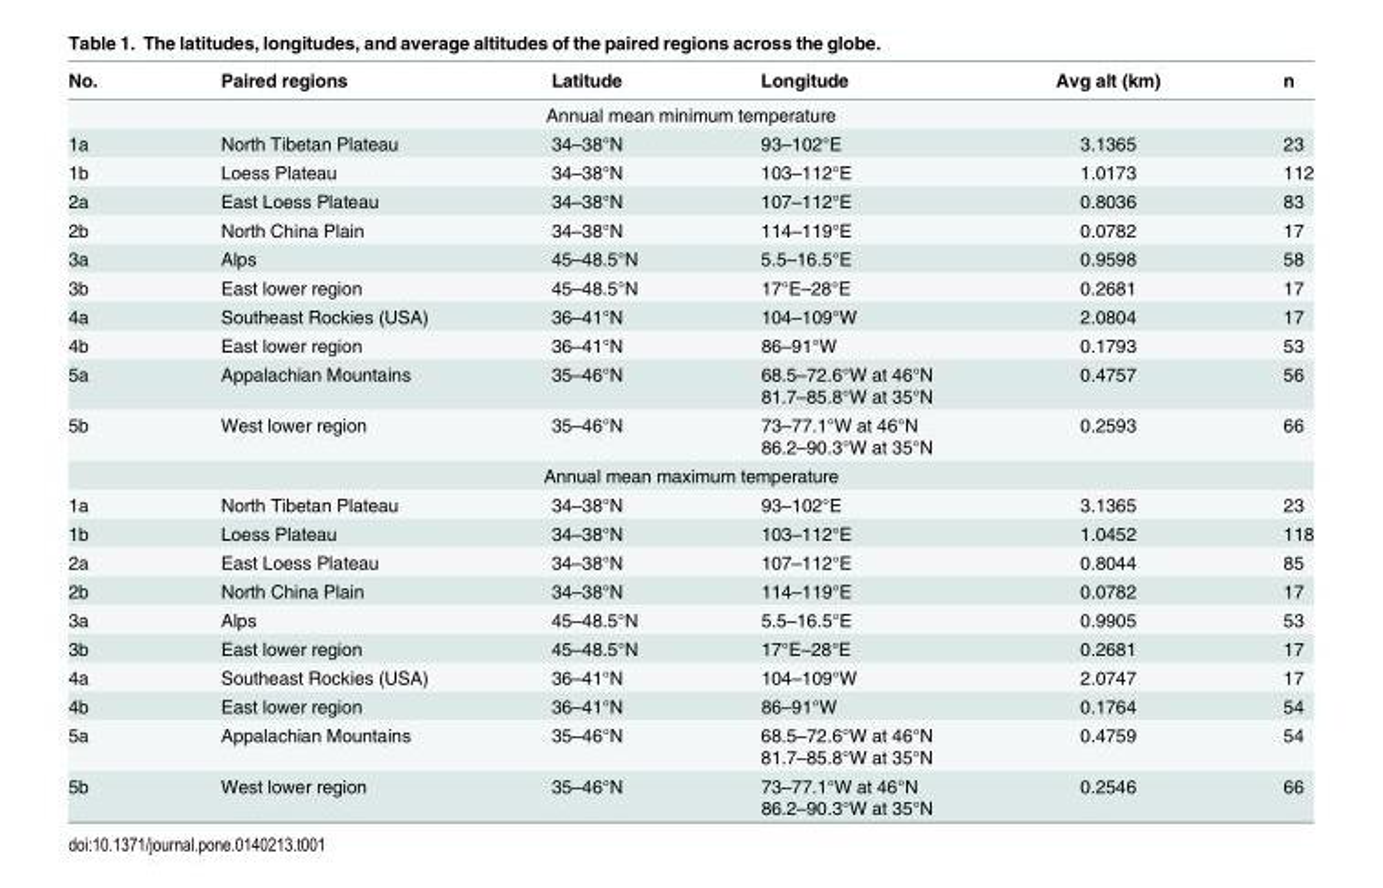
<table><thead><tr><td>No.</td><td>Paired regions</td><td>Latitude</td><td>Longitude</td><td>Avg alt (km)</td><td>n</td></tr></thead><tbody><tr><td colspan="6">Annual mean minimum temperature</td></tr><tr><td>1a</td><td>North Tibetan Plateau</td><td>34–38°N</td><td>93–102°E</td><td>3.1365</td><td>23</td></tr><tr><td>1b</td><td>Loess Plateau</td><td>34–38°N</td><td>103–112°E</td><td>1.0173</td><td>112</td></tr><tr><td>2a</td><td>East Loess Plateau</td><td>34–38°N</td><td>107–112°E</td><td>0.8036</td><td>83</td></tr><tr><td>2b</td><td>North China Plain</td><td>34–38°N</td><td>114–119°E</td><td>0.0782</td><td>17</td></tr><tr><td>3a</td><td>Alps</td><td>45–48.5°N</td><td>5.5–16.5°E</td><td>0.9598</td><td>58</td></tr><tr><td>3b</td><td>East lower region</td><td>45–48.5°N</td><td>17°E–28°E</td><td>0.2681</td><td>17</td></tr><tr><td>4a</td><td>Southeast Rockies (USA)</td><td>36–41°N</td><td>104–109°W</td><td>2.0804</td><td>17</td></tr><tr><td>4b</td><td>East lower region</td><td>36–41°N</td><td>86–91°W</td><td>0.1793</td><td>53</td></tr><tr><td>5a</td><td>Appalachian Mountains</td><td>35–46°N</td><td>68.5–72.6°W at 46°N 81.7–85.8°W at 35°N</td><td>0.4757</td><td>56</td></tr><tr><td>5b</td><td>West lower region</td><td>35–46°N</td><td>73–77.1°W at 46°N 86.2–90.3°W at 35°N</td><td>0.2593</td><td>66</td></tr><tr><td colspan="6">Annual mean maximum temperature</td></tr><tr><td>1a</td><td>North Tibetan Plateau</td><td>34–38°N</td><td>93–102°E</td><td>3.1365</td><td>23</td></tr><tr><td>1b</td><td>Loess Plateau</td><td>34–38°N</td><td>103–112°E</td><td>1.0452</td><td>118</td></tr><tr><td>2a</td><td>East Loess Plateau</td><td>34–38°N</td><td>107–112°E</td><td>0.8044</td><td>85</td></tr><tr><td>2b</td><td>North China Plain</td><td>34–38°N</td><td>114–119°E</td><td>0.0782</td><td>17</td></tr><tr><td>3a</td><td>Alps</td><td>45–48.5°N</td><td>5.5–16.5°E</td><td>0.9905</td><td>53</td></tr><tr><td>3b</td><td>East lower region</td><td>45–48.5°N</td><td>17°E–28°E</td><td>0.2681</td><td>17</td></tr><tr><td>4a</td><td>Southeast Rockies (USA)</td><td>36–41°N</td><td>104–109°W</td><td>2.0747</td><td>17</td></tr><tr><td>4b</td><td>East lower region</td><td>36–41°N</td><td>86–91°W</td><td>0.1764</td><td>54</td></tr><tr><td>5a</td><td>Appalachian Mountains</td><td>35–46°N</td><td>68.5–72.6°W at 46°N 81.7–85.8°W at 35°N</td><td>0.4759</td><td>54</td></tr><tr><td>5b</td><td>West lower region</td><td>35–46°N</td><td>73–77.1°W at 46°N 86.2–90.3°W at 35°N</td><td>0.2546</td><td>66</td></tr></tbody></table>